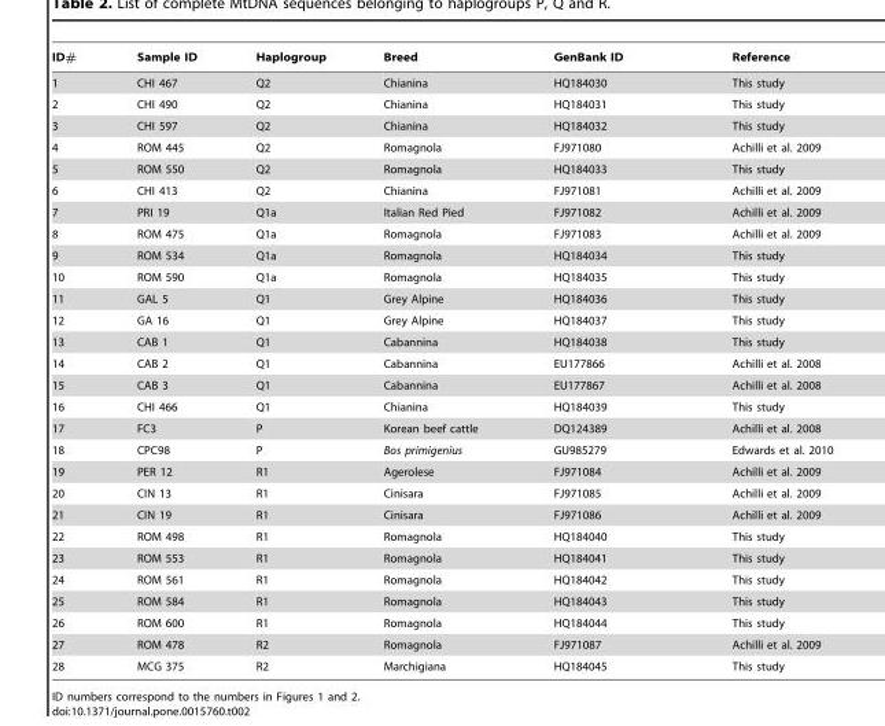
<table><thead><tr><td>ID#</td><td>Sample ID</td><td>Haplogroup</td><td>Breed</td><td>GenBank ID</td><td>Reference</td></tr></thead><tbody><tr><td>1</td><td>CHI 467</td><td>Q2</td><td>Chianina</td><td>HQ184030</td><td>This study</td></tr><tr><td>2</td><td>CHI 490</td><td>Q2</td><td>Chianina</td><td>HQ184031</td><td>This study</td></tr><tr><td>3</td><td>CHI 597</td><td>Q2</td><td>Chianina</td><td>HQ184032</td><td>This study</td></tr><tr><td>4</td><td>ROM 445</td><td>Q2</td><td>Romagnola</td><td>FJ971080</td><td>Achilli et al. 2009</td></tr><tr><td>5</td><td>ROM 550</td><td>Q2</td><td>Romagnola</td><td>HQ184033</td><td>This study</td></tr><tr><td>6</td><td>CHI 413</td><td>Q2</td><td>Chianina</td><td>FJ971081</td><td>Achilli et al. 2009</td></tr><tr><td>7</td><td>PRI 19</td><td>Q1a</td><td>Italian Red Pied</td><td>FJ971082</td><td>Achilli et al. 2009</td></tr><tr><td>8</td><td>ROM 475</td><td>Q1a</td><td>Romagnola</td><td>FJ971083</td><td>Achilli et al. 2009</td></tr><tr><td>9</td><td>ROM 534</td><td>Q1a</td><td>Romagnola</td><td>HQ184034</td><td>This study</td></tr><tr><td>10</td><td>ROM 590</td><td>Q1a</td><td>Romagnola</td><td>HQ184035</td><td>This study</td></tr><tr><td>11</td><td>GAL 5</td><td>Q1</td><td>Grey Alpine</td><td>HQ184036</td><td>This study</td></tr><tr><td>12</td><td>GA 16</td><td>Q1</td><td>Grey Alpine</td><td>HQ184037</td><td>This study</td></tr><tr><td>13</td><td>CAB 1</td><td>Q1</td><td>Cabannina</td><td>HQ184038</td><td>This study</td></tr><tr><td>14</td><td>CAB 2</td><td>Q1</td><td>Cabannina</td><td>EU177866</td><td>Achilli et al. 2008</td></tr><tr><td>15</td><td>CAB 3</td><td>Q1</td><td>Cabannina</td><td>EU177867</td><td>Achilli et al. 2008</td></tr><tr><td>16</td><td>CHI 466</td><td>Q1</td><td>Chianina</td><td>HQ184039</td><td>This study</td></tr><tr><td>17</td><td>FC3</td><td>P</td><td>Korean beef cattle</td><td>DQ124389</td><td>Achilli et al. 2008</td></tr><tr><td>18</td><td>CPC98</td><td>P</td><td>Bos primigenius</td><td>GU985279</td><td>Edwards et al. 2010</td></tr><tr><td>19</td><td>PER 12</td><td>R1</td><td>Agerolese</td><td>FJ971084</td><td>Achilli et al. 2009</td></tr><tr><td>20</td><td>CIN 13</td><td>R1</td><td>Cinisara</td><td>FJ971085</td><td>Achilli et al. 2009</td></tr><tr><td>21</td><td>CIN 19</td><td>R1</td><td>Cinisara</td><td>FJ971086</td><td>Achilli et al. 2009</td></tr><tr><td>22</td><td>ROM 498</td><td>R1</td><td>Romagnola</td><td>HQ184040</td><td>This study</td></tr><tr><td>23</td><td>ROM 553</td><td>R1</td><td>Romagnola</td><td>HQ184041</td><td>This study</td></tr><tr><td>24</td><td>ROM 561</td><td>R1</td><td>Romagnola</td><td>HQ184042</td><td>This study</td></tr><tr><td>25</td><td>ROM 584</td><td>R1</td><td>Romagnola</td><td>HQ184043</td><td>This study</td></tr><tr><td>26</td><td>ROM 600</td><td>R1</td><td>Romagnola</td><td>HQ184044</td><td>This study</td></tr><tr><td>27</td><td>ROM 478</td><td>R2</td><td>Romagnola</td><td>FJ971087</td><td>Achilli et al. 2009</td></tr><tr><td>28</td><td>MCG 375</td><td>R2</td><td>Marchigiana</td><td>HQ184045</td><td>This study</td></tr></tbody></table>